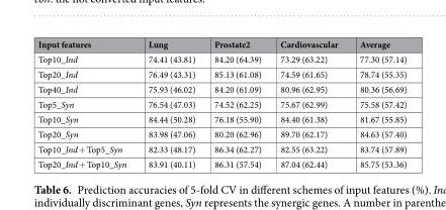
<table><thead><tr><td>Input features</td><td>Lung</td><td>Prostate2</td><td>Cardiovascular</td><td>Average</td></tr></thead><tbody><tr><td>Top10_Ind</td><td>74.41 (43.81)</td><td>84.20 (64.39)</td><td>73.29 (63.22)</td><td>77.30 (57.14)</td></tr><tr><td>Top20_Ind</td><td>76.49 (43.31)</td><td>85.13 (61.08)</td><td>74.59 (61.65)</td><td>78.74 (55.35)</td></tr><tr><td>Top40_Ind</td><td>75.93 (46.02)</td><td>84.20 (61.09)</td><td>80.96 (62.95)</td><td>80.36 (56.69)</td></tr><tr><td>Top5_Syn</td><td>76.54 (47.03)</td><td>74.52 (62.25)</td><td>75.67 (62.99)</td><td>75.58 (57.42)</td></tr><tr><td>Top10_Syn</td><td>84.44 (50.28)</td><td>76.18 (55.90)</td><td>84.40 (61.38)</td><td>81.67 (55.85)</td></tr><tr><td>Top20_Syn</td><td>83.98 (47.06)</td><td>80.20 (62.96)</td><td>89.70 (62.17)</td><td>84.63 (57.40)</td></tr><tr><td>Top10_Ind + Top5_Syn</td><td>82.33 (48.17)</td><td>86.34 (62.27)</td><td>82.55 (63.22)</td><td>83.74 (57.89)</td></tr><tr><td>Top20_Ind + Top10_Syn</td><td>83.91 (40.11)</td><td>86.31 (57.54)</td><td>87.04 (62.44)</td><td>85.75 (53.36)</td></tr></tbody></table>